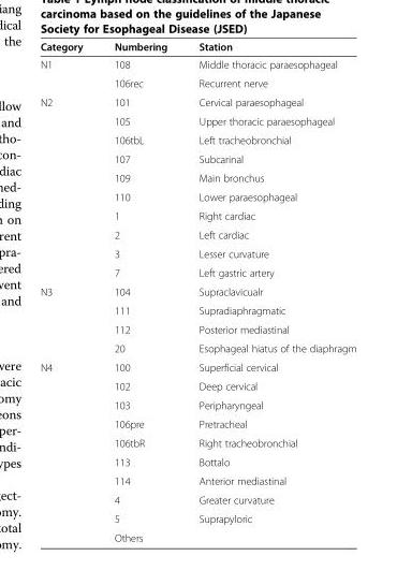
<table><thead><tr><td>Category</td><td>Numbering</td><td>Station</td></tr></thead><tbody><tr><td rowspan="2">N1</td><td>108</td><td>Middle thoracic paraesophageal</td></tr><tr><td>106rec</td><td>Recurrent nerve</td></tr><tr><td rowspan="10">N2</td><td>101</td><td>Cervical paraesophageal</td></tr><tr><td>105</td><td>Upper thoracic paraesophageal</td></tr><tr><td>106tbL</td><td>Left tracheobronchial</td></tr><tr><td>107</td><td>Subcarinal</td></tr><tr><td>109</td><td>Main bronchus</td></tr><tr><td>110</td><td>Lower paraesophageal</td></tr><tr><td>1</td><td>Right cardiac</td></tr><tr><td>2</td><td>Left cardiac</td></tr><tr><td>3</td><td>Lesser curvature</td></tr><tr><td>7</td><td>Left gastric artery</td></tr><tr><td rowspan="4">N3</td><td>104</td><td>Supraclavicualr</td></tr><tr><td>111</td><td>Supradiaphragmatic</td></tr><tr><td>112</td><td>Posterior mediastinal</td></tr><tr><td>20</td><td>Esophageal hiatus of the diaphragm</td></tr><tr><td rowspan="10">N4</td><td>100</td><td>Superficial cervical</td></tr><tr><td>102</td><td>Deep cervical</td></tr><tr><td>103</td><td>Peripharyngeal</td></tr><tr><td>106pre</td><td>Pretracheal</td></tr><tr><td>106tbR</td><td>Right tracheobronchial</td></tr><tr><td>113</td><td>Bottalo</td></tr><tr><td>114</td><td>Anterior mediastinal</td></tr><tr><td>4</td><td>Greater curvature</td></tr><tr><td>5</td><td>Suprapyloric</td></tr><tr><td>Others</td><td></td></tr></tbody></table>